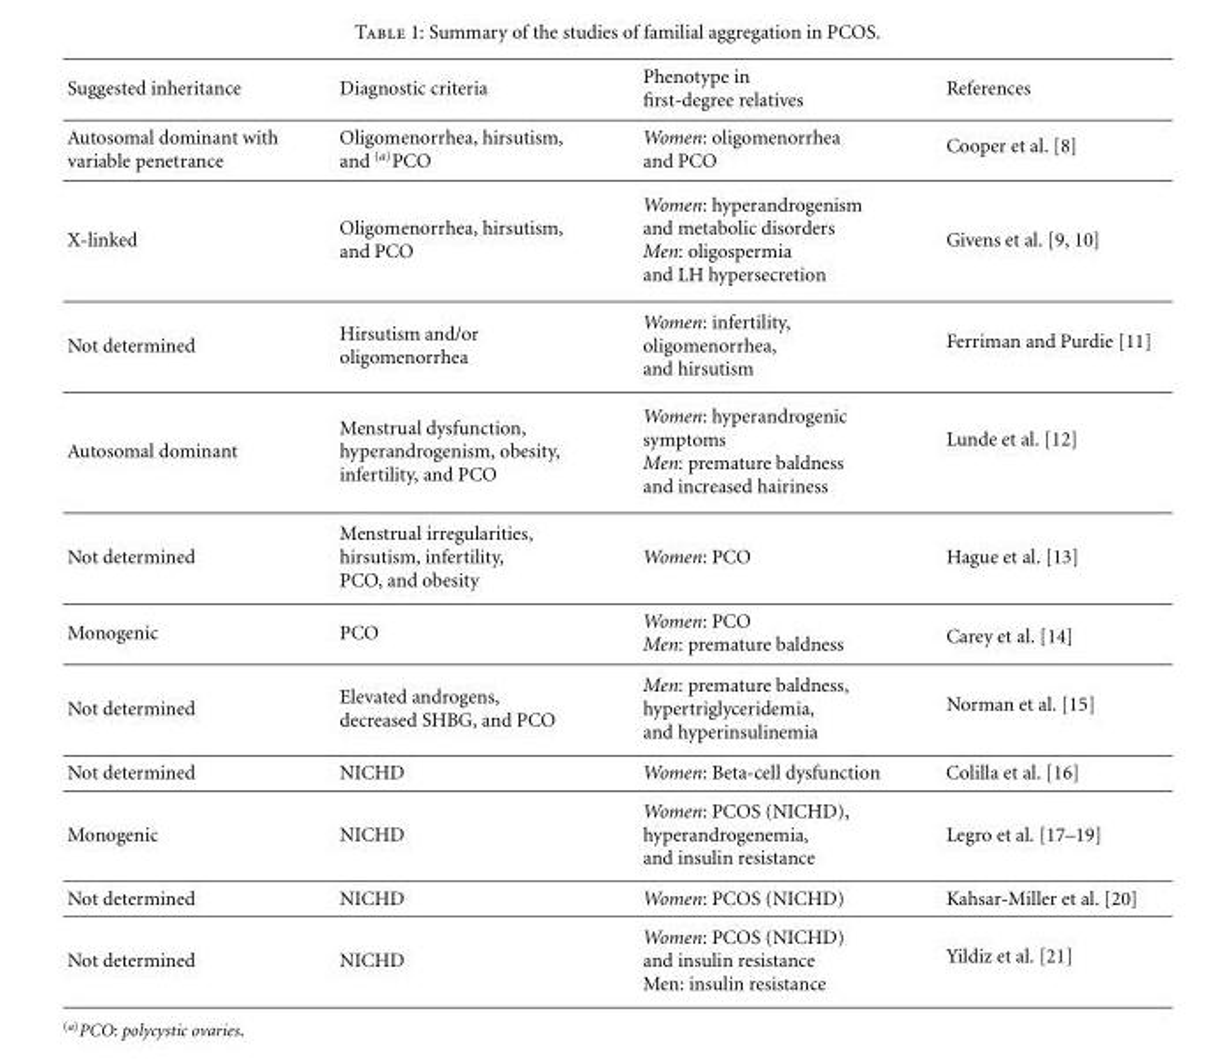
<table><tbody><tr><td>Suggested inheritance</td><td>Diagnostic criteria</td><td>Phenotype in first-degree relatives</td><td>References</td></tr><tr><td>Autosomal dominant with variable penetrance</td><td>Oligomenorrhea, hirsutism, and <sup>(a)</sup>PCO</td><td>Women: oligomenorrhea and PCO</td><td>Cooper et al. [8]</td></tr><tr><td rowspan="2">X-linked</td><td rowspan="2">Oligomenorrhea, hirsutism, and PCO</td><td>Women: hyperandrogenism and metabolic disorders</td><td rowspan="2">Givens et al. [9, 10]</td></tr><tr><td>Men: oligospermia and LH hypersecretion</td></tr><tr><td>Not determined</td><td>Hirsutism and/or oligomenorrhea</td><td>Women: infertility, oligomenorrhea, and hirsutism</td><td>Ferriman and Purdie [11]</td></tr><tr><td rowspan="2">Autosomal dominant</td><td rowspan="2">Menstrual dysfunction, hyperandrogenism, obesity, infertility, and PCO</td><td>Women: hyperandrogenic symptoms</td><td rowspan="2">Lunde et al. [12]</td></tr><tr><td>Men: premature baldness and increased hairiness</td></tr><tr><td>Not determined</td><td>Menstrual irregularities, hirsutism, infertility, PCO, and obesity</td><td>Women: PCO</td><td>Hague et al. [13]</td></tr><tr><td rowspan="2">Monogenic</td><td rowspan="2">PCO</td><td>Women: PCO</td><td rowspan="2">Carey et al. [14]</td></tr><tr><td>Men: premature baldness</td></tr><tr><td>Not determined</td><td>Elevated androgens, decreased SHBG, and PCO</td><td>Men: premature baldness, hypertriglyceridemia, and hyperinsulinemia</td><td>Norman et al. [15]</td></tr><tr><td>Not determined</td><td>NICHD</td><td>Women: Beta-cell dysfunction</td><td>Colilla et al. [16]</td></tr><tr><td>Monogenic</td><td>NICHD</td><td>Women: PCOS (NICHD), hyperandrogenemia, and insulin resistance</td><td>Legro et al. [17–19]</td></tr><tr><td>Not determined</td><td>NICHD</td><td>Women: PCOS (NICHD)</td><td>Kahsar-Miller et al. [20]</td></tr><tr><td rowspan="2">Not determined</td><td rowspan="2">NICHD</td><td>Women: PCOS (NICHD) and insulin resistance</td><td rowspan="2">Yildiz et al. [21]</td></tr><tr><td>Men: insulin resistance</td></tr></tbody></table>